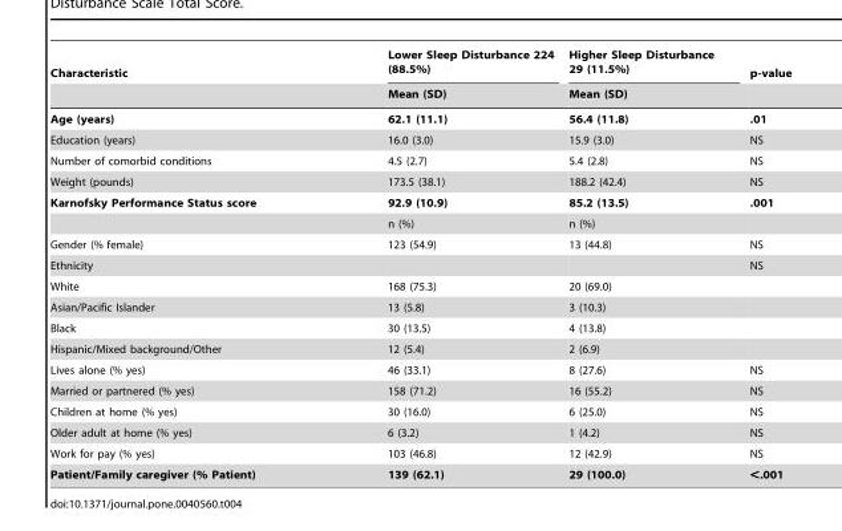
<table><thead><tr><td rowspan="2">Characteristic</td><td rowspan="2">Lower Sleep Disturbance 224 (88.5%) Mean (SD)</td><td rowspan="2">Higher Sleep Disturbance 29 (11.5%) Mean (SD)</td><td rowspan="2">p-value</td></tr><tr></tr></thead><tbody><tr><td>Age (years)</td><td>62.1 (11.1)</td><td>56.4 (11.8)</td><td>.01</td></tr><tr><td>Education (years)</td><td>16.0 (3.0)</td><td>15.9 (3.0)</td><td>NS</td></tr><tr><td>Number of comorbid conditions</td><td>4.5 (2.7)</td><td>5.4 (2.8)</td><td>NS</td></tr><tr><td>Weight (pounds)</td><td>173.5 (38.1)</td><td>188.2 (42.4)</td><td>NS</td></tr><tr><td rowspan="2">Karnofsky Performance Status score</td><td>92.9 (10.9)</td><td>85.2 (13.5)</td><td>.001</td></tr><tr><td>n (%)</td><td>n (%)</td><td></td></tr><tr><td>Gender (% female)</td><td>123 (54.9)</td><td>13 (44.8)</td><td>NS</td></tr><tr><td>Ethnicity</td><td></td><td></td><td>NS</td></tr><tr><td>White</td><td>168 (75.3)</td><td>20 (69.0)</td><td></td></tr><tr><td>Asian/Pacific Islander</td><td>13 (5.8)</td><td>3 (10.3)</td><td></td></tr><tr><td>Black</td><td>30 (13.5)</td><td>4 (13.8)</td><td></td></tr><tr><td>Hispanic/Mixed background/Other</td><td>12 (5.4)</td><td>2 (6.9)</td><td></td></tr><tr><td>Lives alone (% yes)</td><td>46 (33.1)</td><td>8 (27.6)</td><td>NS</td></tr><tr><td>Married or partnered (% yes)</td><td>158 (71.2)</td><td>16 (55.2)</td><td>NS</td></tr><tr><td>Children at home (% yes)</td><td>30 (16.0)</td><td>6 (25.0)</td><td>NS</td></tr><tr><td>Older adult at home (% yes)</td><td>6 (3.2)</td><td>1 (4.2)</td><td>NS</td></tr><tr><td>Work for pay (% yes)</td><td>103 (46.8)</td><td>12 (42.9)</td><td>NS</td></tr><tr><td>Patient/Family caregiver (% Patient)</td><td>139 (62.1)</td><td>29 (100.0)</td><td>&lt;.001</td></tr></tbody></table>